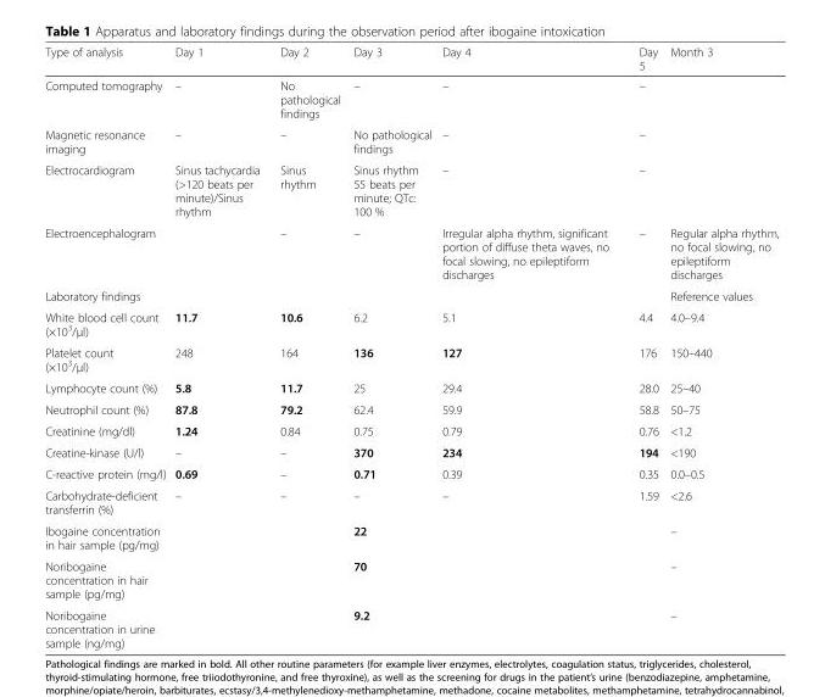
<table><thead><tr><td>Type of analysis</td><td>Day 1</td><td>Day 2</td><td>Day 3</td><td>Day 4</td><td>Day 5</td><td>Month 3</td></tr></thead><tbody><tr><td>Computed tomography</td><td>–</td><td>No pathological findings</td><td>–</td><td>–</td><td>–</td><td></td></tr><tr><td>Magnetic resonance imaging</td><td>–</td><td>–</td><td>No pathological findings</td><td>–</td><td>–</td><td></td></tr><tr><td>Electrocardiogram</td><td>Sinus tachycardia (&gt;120 beats per minute)/Sinus rhythm</td><td>Sinus rhythm</td><td>Sinus rhythm 55 beats per minute; QTc: 100 %</td><td>–</td><td>–</td><td></td></tr><tr><td>Electroencephalogram</td><td></td><td>–</td><td>–</td><td>Irregular alpha rhythm, significant portion of diffuse theta waves, no focal slowing, no epileptiform discharges</td><td>–</td><td>Regular alpha rhythm, no focal slowing, no epileptiform discharges</td></tr><tr><td colspan="6">Laboratory findings</td><td>Reference values</td></tr><tr><td>White blood cell count (×10<sup>3</sup>/μl)</td><td>11.7</td><td>10.6</td><td>6.2</td><td>5.1</td><td>4.4</td><td>4.0–9.4</td></tr><tr><td>Platelet count (×10<sup>3</sup>/μl)</td><td>248</td><td>164</td><td>136</td><td>127</td><td>176</td><td>150–440</td></tr><tr><td>Lymphocyte count (%)</td><td>5.8</td><td>11.7</td><td>25</td><td>29.4</td><td>28.0</td><td>25–40</td></tr><tr><td>Neutrophil count (%)</td><td>87.8</td><td>79.2</td><td>62.4</td><td>59.9</td><td>58.8</td><td>50–75</td></tr><tr><td>Creatinine (mg/dl)</td><td>1.24</td><td>0.84</td><td>0.75</td><td>0.79</td><td>0.76</td><td>&lt;1.2</td></tr><tr><td>Creatine-kinase (U/l)</td><td>–</td><td>–</td><td>370</td><td>234</td><td>194</td><td>&lt;190</td></tr><tr><td>C-reactive protein (mg/l)</td><td>0.69</td><td>–</td><td>0.71</td><td>0.39</td><td>0.35</td><td>0.0–0.5</td></tr><tr><td>Carbohydrate-deficient transferrin (%)</td><td>–</td><td>–</td><td>–</td><td>–</td><td>1.59</td><td>&lt;2.6</td></tr><tr><td>Ibogaine concentration in hair sample (pg/mg)</td><td></td><td></td><td>22</td><td></td><td></td><td>–</td></tr><tr><td>Noribogaine concentration in hair sample (pg/mg)</td><td></td><td></td><td>70</td><td></td><td></td><td>–</td></tr><tr><td>Noribogaine concentration in urine sample (ng/mg)</td><td></td><td></td><td>9.2</td><td></td><td></td><td>–</td></tr></tbody></table>